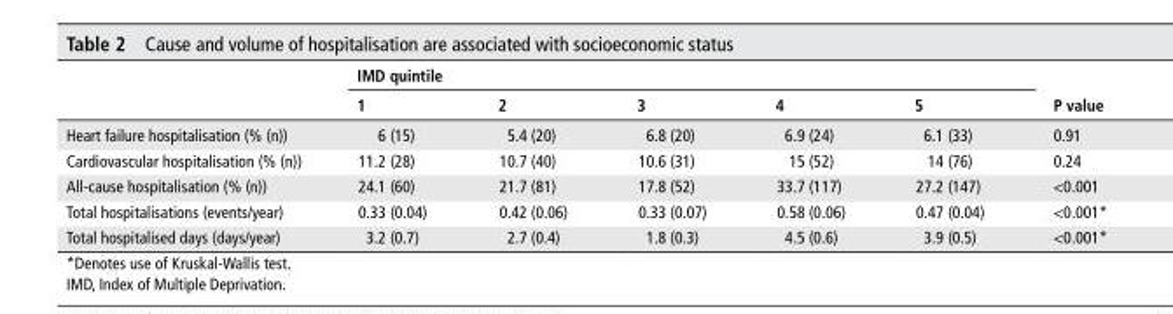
<table><thead><tr><td rowspan="2"></td><td colspan="5">IMd quintile</td><td rowspan="2">P value</td></tr><tr><td>1</td><td>2</td><td>3</td><td>4</td><td>5</td></tr></thead><tbody><tr><td>Heart failure hospitalisation (% (n))</td><td>6 (15)</td><td>5.4 (20)</td><td>6.8 (20)</td><td>6.9 (24)</td><td>6.1 (33)</td><td>0.91</td></tr><tr><td>Cardiovascular hospitalisation (% (n))</td><td>11.2 (28)</td><td>10.7 (40)</td><td>10.6 (31)</td><td>15 (52)</td><td>14 (76)</td><td>0.24</td></tr><tr><td>All-cause hospitalisation (% (n))</td><td>24.1 (60)</td><td>21.7 (81)</td><td>17.8 (52)</td><td>33.7 (117)</td><td>27.2 (147)</td><td>&lt;0.001</td></tr><tr><td>Total hospitalisations (events/year)</td><td>0.33 (0.04)</td><td>0.42 (0.06)</td><td>0.33 (0.07)</td><td>0.58 (0.06)</td><td>0.47 (0.04)</td><td>&lt;0.001*</td></tr><tr><td>Total hospitalised days (days/year)</td><td>3.2 (0.7)</td><td>2.7 (0.4)</td><td>1.8 (0.3)</td><td>4.5 (0.6)</td><td>3.9 (0.5)</td><td>&lt;0.001*</td></tr></tbody></table>